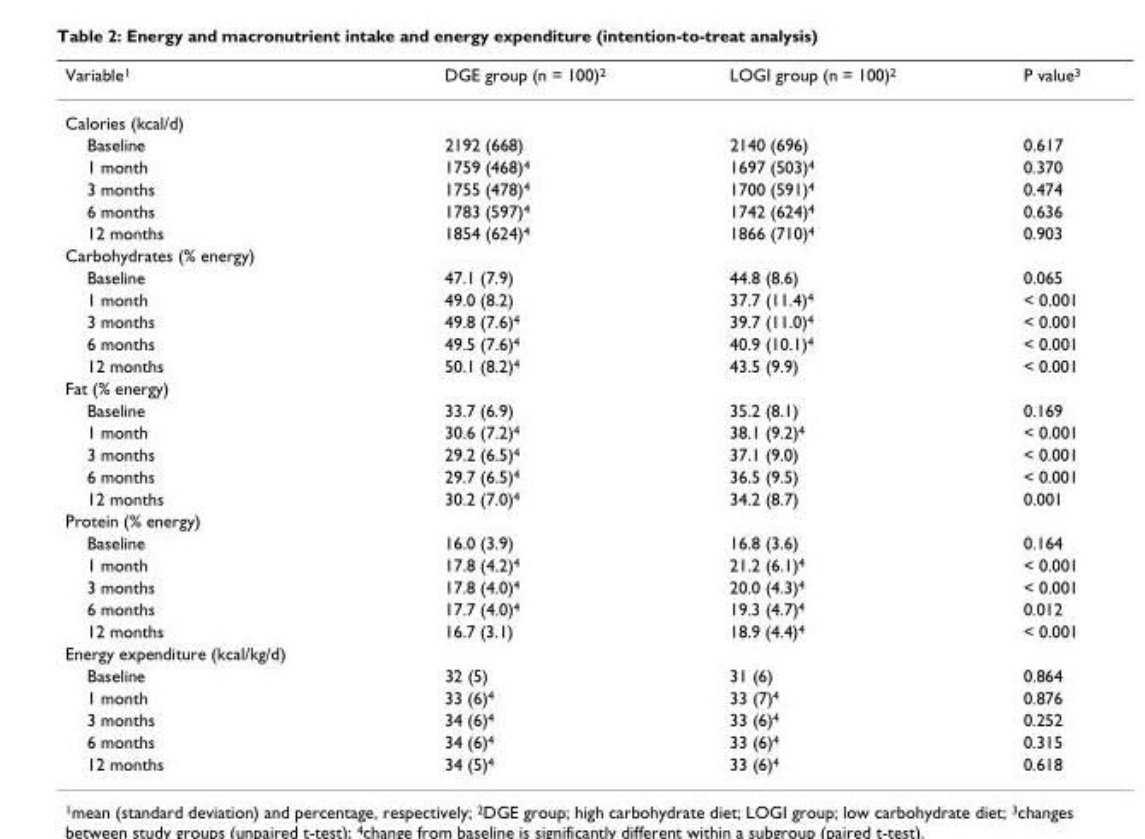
<table><thead><tr><td>Variable<sup>1</sup></td><td>DGE group (n = 100)<sup>2</sup></td><td>LOGI group (n = 100)<sup>2</sup></td><td>P value<sup>3</sup></td></tr></thead><tbody><tr><td colspan="4">Calories (kcal/d)</td></tr><tr><td>Baseline</td><td>2192 (668)</td><td>2140 (696)</td><td>0.617</td></tr><tr><td>1 month</td><td>1759 (468)<sup>4</sup></td><td>1697 (503)<sup>4</sup></td><td>0.370</td></tr><tr><td>3 months</td><td>1755 (478)<sup>4</sup></td><td>1700 (591)<sup>4</sup></td><td>0.474</td></tr><tr><td>6 months</td><td>1783 (597)<sup>4</sup></td><td>1742 (624)<sup>4</sup></td><td>0.636</td></tr><tr><td>12 months</td><td>1854 (624)<sup>4</sup></td><td>1866 (710)<sup>4</sup></td><td>0.903</td></tr><tr><td colspan="4">Carbohydrates (% energy)</td></tr><tr><td>Baseline</td><td>47.1 (7.9)</td><td>44.8 (8.6)</td><td>0.065</td></tr><tr><td>1 month</td><td>49.0 (8.2)</td><td>37.7 (11.4)<sup>4</sup></td><td>&lt; 0.001</td></tr><tr><td>3 months</td><td>49.8 (7.6)<sup>4</sup></td><td>39.7 (11.0)<sup>4</sup></td><td>&lt; 0.001</td></tr><tr><td>6 months</td><td>49.5 (7.6)<sup>4</sup></td><td>40.9 (10.1)<sup>4</sup></td><td>&lt; 0.001</td></tr><tr><td>12 months</td><td>50.1 (8.2)<sup>4</sup></td><td>43.5 (9.9)</td><td>&lt; 0.001</td></tr><tr><td colspan="4">Fat (% energy)</td></tr><tr><td>Baseline</td><td>33.7 (6.9)</td><td>35.2 (8.1)</td><td>0.169</td></tr><tr><td>1 month</td><td>30.6 (7.2)<sup>4</sup></td><td>38.1 (9.2)<sup>4</sup></td><td>&lt; 0.001</td></tr><tr><td>3 months</td><td>29.2 (6.5)<sup>4</sup></td><td>37.1 (9.0)</td><td>&lt; 0.001</td></tr><tr><td>6 months</td><td>29.7 (6.5)<sup>4</sup></td><td>36.5 (9.5)</td><td>&lt; 0.001</td></tr><tr><td>12 months</td><td>30.2 (7.0)<sup>4</sup></td><td>34.2 (8.7)</td><td>0.001</td></tr><tr><td colspan="4">Protein (% energy)</td></tr><tr><td>Baseline</td><td>16.0 (3.9)</td><td>16.8 (3.6)</td><td>0.164</td></tr><tr><td>1 month</td><td>17.8 (4.2)<sup>4</sup></td><td>21.2 (6.1)<sup>4</sup></td><td>&lt; 0.001</td></tr><tr><td>3 months</td><td>17.8 (4.0)<sup>4</sup></td><td>20.0 (4.3)<sup>4</sup></td><td>&lt; 0.001</td></tr><tr><td>6 months</td><td>17.7 (4.0)<sup>4</sup></td><td>19.3 (4.7)<sup>4</sup></td><td>0.012</td></tr><tr><td>12 months</td><td>16.7 (3.1)</td><td>18.9 (4.4)<sup>4</sup></td><td>&lt; 0.001</td></tr><tr><td colspan="4">Energy expenditure (kcal/kg/d)</td></tr><tr><td>Baseline</td><td>32 (5)</td><td>31 (6)</td><td>0.864</td></tr><tr><td>1 month</td><td>33 (6)<sup>4</sup></td><td>33 (7)<sup>4</sup></td><td>0.876</td></tr><tr><td>3 months</td><td>34 (6)<sup>4</sup></td><td>33 (6)<sup>4</sup></td><td>0.252</td></tr><tr><td>6 months</td><td>34 (6)<sup>4</sup></td><td>33 (6)<sup>4</sup></td><td>0.315</td></tr><tr><td>12 months</td><td>34 (5)<sup>4</sup></td><td>33 (6)<sup>4</sup></td><td>0.618</td></tr></tbody></table>